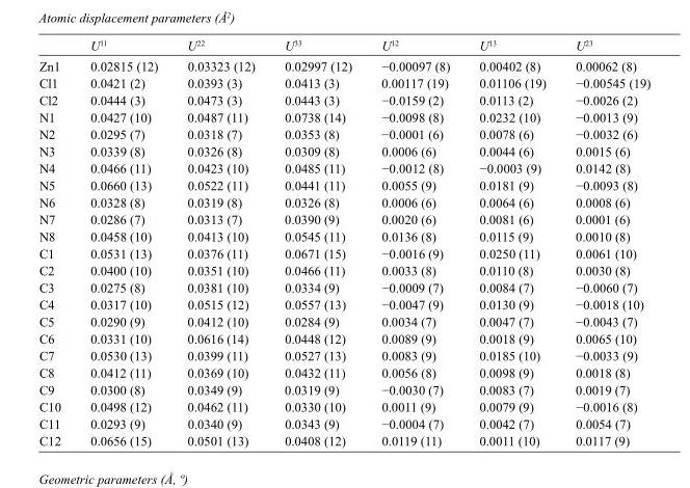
<table><thead><tr><td></td><td>U<sup>11</sup></td><td>U<sup>22</sup></td><td>U<sup>33</sup></td><td>U<sup>12</sup></td><td>U<sup>13</sup></td><td>U<sup>23</sup></td></tr></thead><tbody><tr><td>Zn1</td><td>0.02815 (12)</td><td>0.03323 (12)</td><td>0.02997 (12)</td><td>−0.00097 (8)</td><td>0.00402 (8)</td><td>0.00062 (8)</td></tr><tr><td>Cl1</td><td>0.0421 (2)</td><td>0.0393 (3)</td><td>0.0413 (3)</td><td>0.00117 (19)</td><td>0.01106 (19)</td><td>−0.00545 (19)</td></tr><tr><td>Cl2</td><td>0.0444 (3)</td><td>0.0473 (3)</td><td>0.0443 (3)</td><td>−0.0159 (2)</td><td>0.0113 (2)</td><td>−0.0026 (2)</td></tr><tr><td>N1</td><td>0.0427 (10)</td><td>0.0487 (11)</td><td>0.0738 (14)</td><td>−0.0098 (8)</td><td>0.0232 (10)</td><td>−0.0013 (9)</td></tr><tr><td>N2</td><td>0.0295 (7)</td><td>0.0318 (7)</td><td>0.0353 (8)</td><td>−0.0001 (6)</td><td>0.0078 (6)</td><td>−0.0032 (6)</td></tr><tr><td>N3</td><td>0.0339 (8)</td><td>0.0326 (8)</td><td>0.0309 (8)</td><td>0.0006 (6)</td><td>0.0044 (6)</td><td>0.0015 (6)</td></tr><tr><td>N4</td><td>0.0466 (11)</td><td>0.0423 (10)</td><td>0.0485 (11)</td><td>−0.0012 (8)</td><td>−0.0003 (9)</td><td>0.0142 (8)</td></tr><tr><td>N5</td><td>0.0660 (13)</td><td>0.0522 (11)</td><td>0.0441 (11)</td><td>0.0055 (9)</td><td>0.0181 (9)</td><td>−0.0093 (8)</td></tr><tr><td>N6</td><td>0.0328 (8)</td><td>0.0319 (8)</td><td>0.0326 (8)</td><td>0.0006 (6)</td><td>0.0064 (6)</td><td>0.0008 (6)</td></tr><tr><td>N7</td><td>0.0286 (7)</td><td>0.0313 (7)</td><td>0.0390 (9)</td><td>0.0020 (6)</td><td>0.0081 (6)</td><td>0.0001 (6)</td></tr><tr><td>N8</td><td>0.0458 (10)</td><td>0.0413 (10)</td><td>0.0545 (11)</td><td>0.0136 (8)</td><td>0.0115 (9)</td><td>0.0010 (8)</td></tr><tr><td>C1</td><td>0.0531 (13)</td><td>0.0376 (11)</td><td>0.0671 (15)</td><td>−0.0016 (9)</td><td>0.0250 (11)</td><td>0.0061 (10)</td></tr><tr><td>C2</td><td>0.0400 (10)</td><td>0.0351 (10)</td><td>0.0466 (11)</td><td>0.0033 (8)</td><td>0.0110 (8)</td><td>0.0030 (8)</td></tr><tr><td>C3</td><td>0.0275 (8)</td><td>0.0381 (10)</td><td>0.0334 (9)</td><td>−0.0009 (7)</td><td>0.0084 (7)</td><td>−0.0060 (7)</td></tr><tr><td>C4</td><td>0.0317 (10)</td><td>0.0515 (12)</td><td>0.0557 (13)</td><td>−0.0047 (9)</td><td>0.0130 (9)</td><td>−0.0018 (10)</td></tr><tr><td>C5</td><td>0.0290 (9)</td><td>0.0412 (10)</td><td>0.0284 (9)</td><td>0.0034 (7)</td><td>0.0047 (7)</td><td>−0.0043 (7)</td></tr><tr><td>C6</td><td>0.0331 (10)</td><td>0.0616 (14)</td><td>0.0448 (12)</td><td>0.0089 (9)</td><td>0.0018 (9)</td><td>0.0065 (10)</td></tr><tr><td>C7</td><td>0.0530 (13)</td><td>0.0399 (11)</td><td>0.0527 (13)</td><td>0.0083 (9)</td><td>0.0185 (10)</td><td>−0.0033 (9)</td></tr><tr><td>C8</td><td>0.0412 (11)</td><td>0.0369 (10)</td><td>0.0432 (11)</td><td>0.0056 (8)</td><td>0.0098 (9)</td><td>0.0018 (8)</td></tr><tr><td>C9</td><td>0.0300 (8)</td><td>0.0349 (9)</td><td>0.0319 (9)</td><td>−0.0030 (7)</td><td>0.0083 (7)</td><td>0.0019 (7)</td></tr><tr><td>C10</td><td>0.0498 (12)</td><td>0.0462 (11)</td><td>0.0330 (10)</td><td>0.0011 (9)</td><td>0.0079 (9)</td><td>−0.0016 (8)</td></tr><tr><td>C11</td><td>0.0293 (9)</td><td>0.0340 (9)</td><td>0.0343 (9)</td><td>−0.0004 (7)</td><td>0.0042 (7)</td><td>0.0054 (7)</td></tr><tr><td>C12</td><td>0.0656 (15)</td><td>0.0501 (13)</td><td>0.0408 (12)</td><td>0.0119 (11)</td><td>0.0011 (10)</td><td>0.0117 (9)</td></tr></tbody></table>